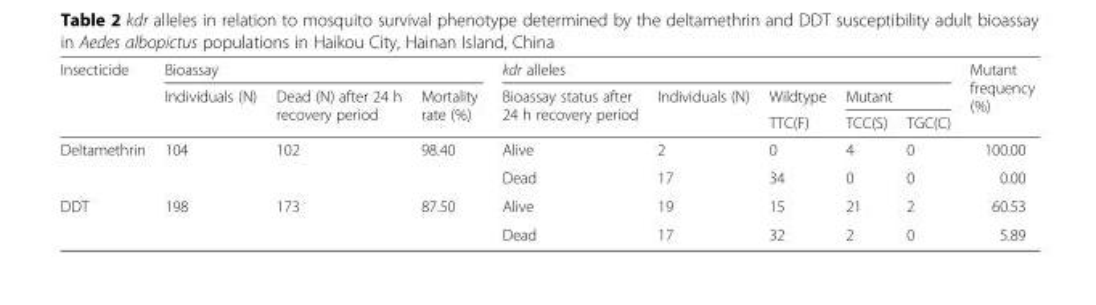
<table><thead><tr><td rowspan="3">Insecticide</td><td colspan="3">Bioassay</td><td colspan="5">kdr alleles</td><td rowspan="3">Mutant frequency (%)</td></tr><tr><td rowspan="2">Individuals (N)</td><td rowspan="2">Dead (N) after 24 h recovery period</td><td rowspan="2">Mortality rate (%)</td><td rowspan="2">Bioassay status after 24 h recovery period</td><td rowspan="2">Individuals (N)</td><td rowspan="2">Wildtype TTC(F)</td><td colspan="2">Mutant</td></tr><tr><td>TCC(S)</td><td>TGC(C)</td></tr></thead><tbody><tr><td rowspan="2">Deltamethrin</td><td rowspan="2">104</td><td rowspan="2">102</td><td rowspan="2">98.40</td><td>Alive</td><td>2</td><td>0</td><td>4</td><td>0</td><td>100.00</td></tr><tr><td>Dead</td><td>17</td><td>34</td><td>0</td><td>0</td><td>0.00</td></tr><tr><td rowspan="2">DDT</td><td rowspan="2">198</td><td rowspan="2">173</td><td rowspan="2">87.50</td><td>Alive</td><td>19</td><td>15</td><td>21</td><td>2</td><td>60.53</td></tr><tr><td>Dead</td><td>17</td><td>32</td><td>2</td><td>0</td><td>5.89</td></tr></tbody></table>